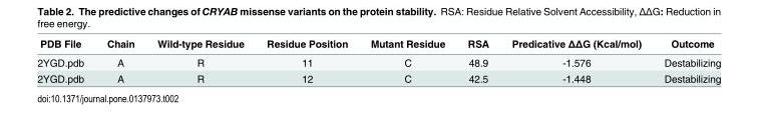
<table><thead><tr><td>PDB File</td><td>Chain</td><td>Wild-type Residue</td><td>Residue Position</td><td>Mutant Residue</td><td>RSA</td><td>Predicative ΔΔG (Kcal/mol)</td><td>Outcome</td></tr></thead><tbody><tr><td>2YGD.pdb</td><td>A</td><td>R</td><td>11</td><td>C</td><td>48.9</td><td>-1.576</td><td>Destabilizing</td></tr><tr><td>2YGD.pdb</td><td>A</td><td>R</td><td>12</td><td>C</td><td>42.5</td><td>-1.448</td><td>Destabilizing</td></tr></tbody></table>